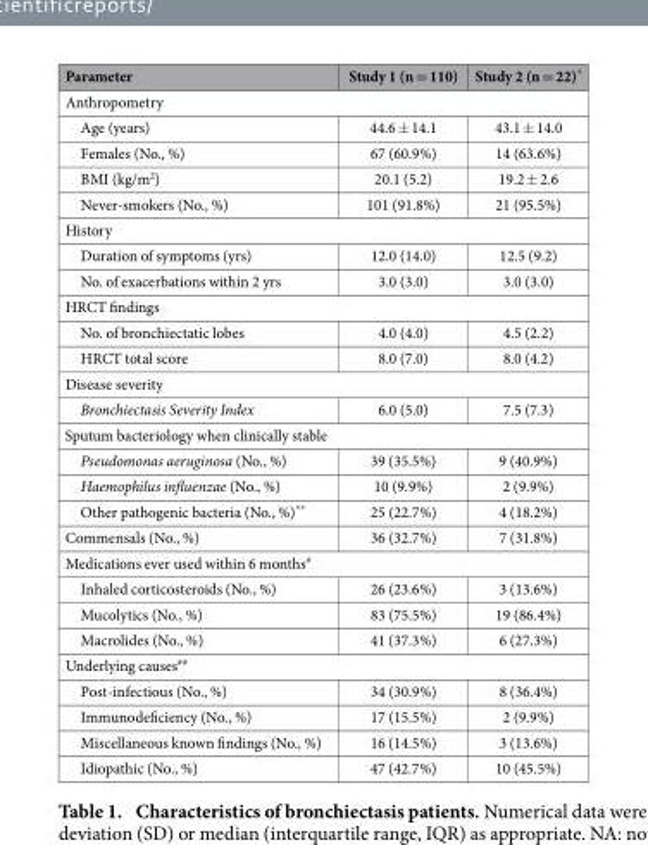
<table><thead><tr><td>Parameter</td><td>Study 1 (n = 110)</td><td>Study 2 (n = 22)*</td></tr></thead><tbody><tr><td colspan="3">Anthropometry</td></tr><tr><td>Age (years)</td><td>44.6 ± 14.1</td><td>43.1 ± 14.0</td></tr><tr><td>Females (No., %)</td><td>67 (60.9%)</td><td>14 (63.6%)</td></tr><tr><td>BMI (kg/m<sup>2</sup>)</td><td>20.1 (5.2)</td><td>19.2 ± 2.6</td></tr><tr><td>Never-smokers (No., %)</td><td>101 (91.8%)</td><td>21 (95.5%)</td></tr><tr><td colspan="3">History</td></tr><tr><td>Duration of symptoms (yrs)</td><td>12.0 (14.0)</td><td>12.5 (9.2)</td></tr><tr><td>No. of exacerbations within 2 yrs</td><td>3.0 (3.0)</td><td>3.0 (3.0)</td></tr><tr><td colspan="3">HRCT findings</td></tr><tr><td>No. of bronchiectatic lobes</td><td>4.0 (4.0)</td><td>4.5 (2.2)</td></tr><tr><td>HRCT total score</td><td>8.0 (7.0)</td><td>8.0 (4.2)</td></tr><tr><td colspan="3">Disease severity</td></tr><tr><td>Bronchiectasis Severity Index</td><td>6.0 (5.0)</td><td>7.5 (7.3)</td></tr><tr><td colspan="3">Sputum bacteriology when clinically stable</td></tr><tr><td>Pseudomonas aeruginosa (No., %)</td><td>39 (35.5%)</td><td>9 (40.9%)</td></tr><tr><td>Haemophilus influenzae (No., %)</td><td>10 (9.9%)</td><td>2 (9.9%)</td></tr><tr><td>Other pathogenic bacteria (No., %)**</td><td>25 (22.7%)</td><td>4 (18.2%)</td></tr><tr><td>Commensals (No., %)</td><td>36 (32.7%)</td><td>7 (31.8%)</td></tr><tr><td colspan="3">Medications ever used within 6 months#</td></tr><tr><td>Inhaled corticosteroids (No., %)</td><td>26 (23.6%)</td><td>3 (13.6%)</td></tr><tr><td>Mucolytics (No., %)</td><td>83 (75.5%)</td><td>19 (86.4%)</td></tr><tr><td>Macrolides (No., %)</td><td>41 (37.3%)</td><td>6 (27.3%)</td></tr><tr><td colspan="3">Underlying causes##</td></tr><tr><td>Post-infectious (No., %)</td><td>34 (30.9%)</td><td>8 (36.4%)</td></tr><tr><td>Immunodeficiency (No., %)</td><td>17 (15.5%)</td><td>2 (9.9%)</td></tr><tr><td>Miscellaneous known findings (No., %)</td><td>16 (14.5%)</td><td>3 (13.6%)</td></tr><tr><td>Idiopathic (No., %)</td><td>47 (42.7%)</td><td>10 (45.5%)</td></tr></tbody></table>